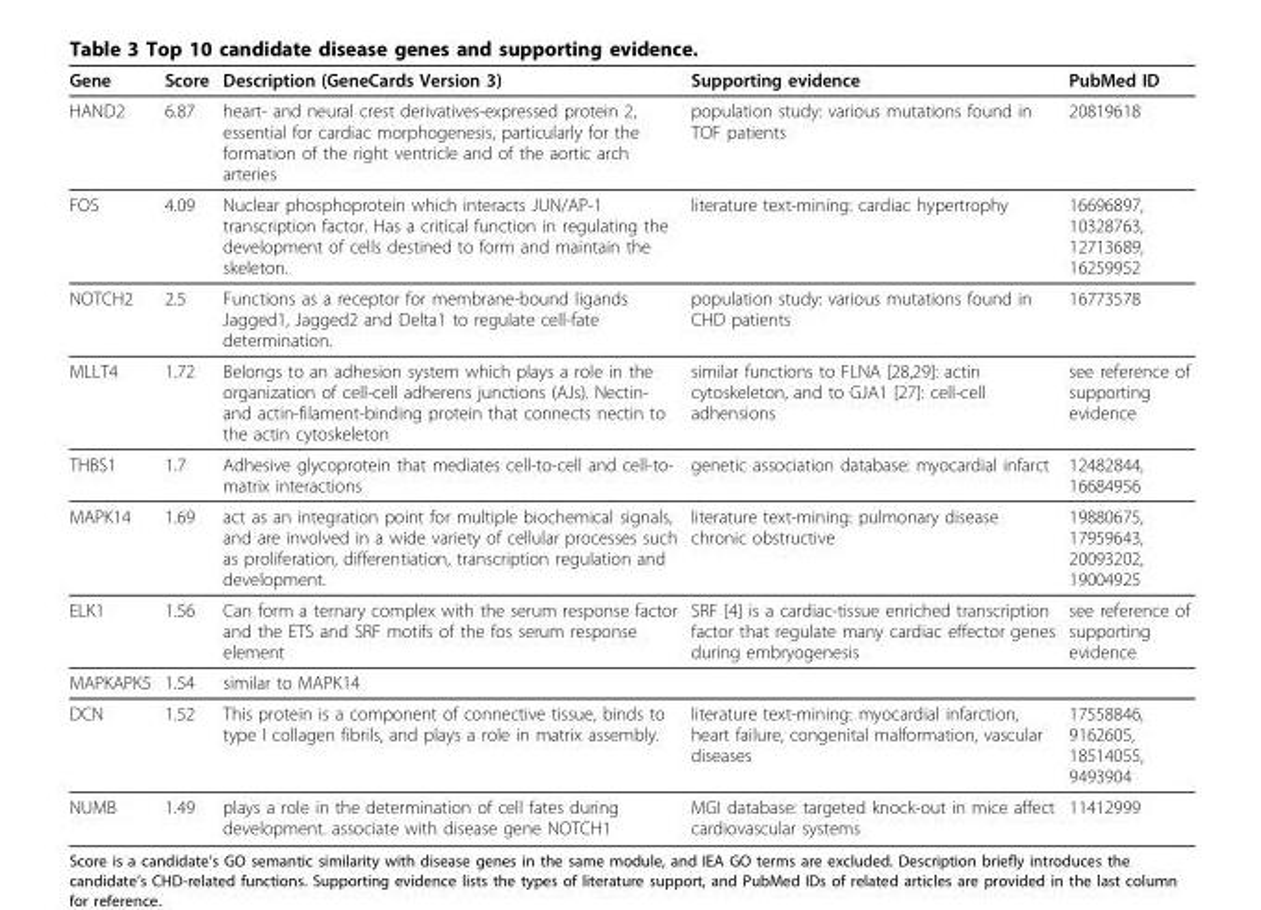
<table><thead><tr><td>Gene</td><td>Score</td><td>Description (GeneCards Version 3)</td><td>Supporting evidence</td><td>PubMed ID</td></tr></thead><tbody><tr><td>HAND2</td><td>6.87</td><td>heart- and neural crest derivatives-expressed protein 2, essential for cardiac morphogenesis, particularly for the formation of the right ventricle and of the aortic arch arteries</td><td>population study: various mutations found in TOF patients</td><td>20819618</td></tr><tr><td>FOS</td><td>4.09</td><td>Nuclear phosphoprotein which interacts JUN/AP-1 transcription factor. Has a critical function in regulating the development of cells destined to form and maintain the skeleton.</td><td>literature text-mining: cardiac hypertrophy</td><td>16696897, 10328763, 12713689, 16259952</td></tr><tr><td>NOTCH2</td><td>2.5</td><td>Functions as a receptor for membrane-bound ligands Jagged1, Jagged2 and Delta1 to regulate cell-fate determination.</td><td>population study: various mutations found in CHD patients</td><td>16773578</td></tr><tr><td>MLLT4</td><td>1.72</td><td>Belongs to an adhesion system which plays a role in the organization of cell-cell adherens junctions (AJs). Nectin- and actin-filament-binding protein that connects nectin to the actin cytoskeleton</td><td>similar functions to FLNA [28,29]: actin cytoskeleton, and to GJA1 [27]: cell-cell adhensions</td><td>see reference of supporting evidence</td></tr><tr><td>THBS1</td><td>1.7</td><td>Adhesive glycoprotein that mediates cell-to-cell and cell-to- matrix interactions</td><td>genetic association database: myocardial infarct</td><td>12482844, 16684956</td></tr><tr><td>MAPK14</td><td>1.69</td><td>act as an integration point for multiple biochemical signals, and are involved in a wide variety of cellular processes such as proliferation, differentiation, transcription regulation and development.</td><td>literature text-mining: pulmonary disease chronic obstructive</td><td>19880675, 17959643, 20093202, 19004925</td></tr><tr><td>ELK1</td><td>1.56</td><td>Can form a ternary complex with the serum response factor and the ETS and SRF motifs of the fos serum response element</td><td>SRF [4] is a cardiac-tissue enriched transcription factor that regulate many cardiac effector genes during embryogenesis</td><td>see reference of supporting evidence</td></tr><tr><td>MAPKAPK5</td><td>1.54</td><td colspan="3">similar to MAPK14</td></tr><tr><td>DCN</td><td>1.52</td><td>This protein is a component of connective tissue, binds to type I collagen fibrils, and plays a role in matrix assembly.</td><td>literature text-mining: myocardial infarction, heart failure, congenital malformation, vascular diseases</td><td>17558846, 9162605, 18514055, 9493904</td></tr><tr><td>NUMB</td><td>1.49</td><td>plays a role in the determination of cell fates during development. associate with disease gene NOTCH1</td><td>MGI database: targeted knock-out in mice affect cardiovascular systems</td><td>11412999</td></tr></tbody></table>